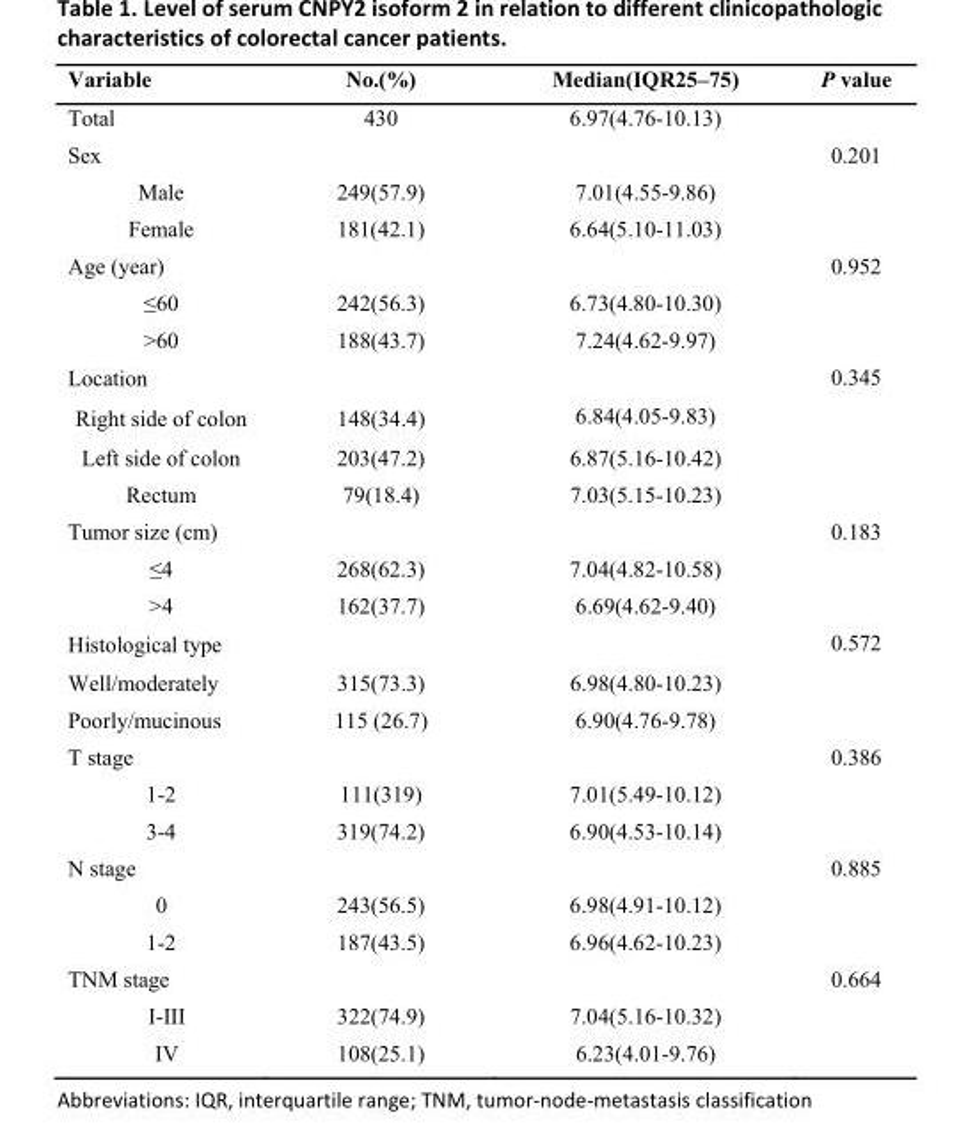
<table><tbody><tr><td>Variable</td><td>No.(%)</td><td>Median(IQR25–75)</td><td>P value</td></tr><tr><td>Total</td><td>430</td><td>6.97(4.76-10.13)</td><td></td></tr><tr><td>Sex</td><td></td><td></td><td>0.201</td></tr><tr><td>Male</td><td>249(57.9)</td><td>7.01(4.55-9.86)</td><td></td></tr><tr><td>Female</td><td>181(42.1)</td><td>6.64(5.10-11.03)</td><td></td></tr><tr><td>Age (year)</td><td></td><td></td><td>0.952</td></tr><tr><td>≤60</td><td>242(56.3)</td><td>6.73(4.80-10.30)</td><td></td></tr><tr><td>&gt;60</td><td>188(43.7)</td><td>7.24(4.62-9.97)</td><td></td></tr><tr><td>Location</td><td></td><td></td><td>0.345</td></tr><tr><td>Right side of colon</td><td>148(34.4)</td><td>6.84(4.05-9.83)</td><td></td></tr><tr><td>Left side of colon</td><td>203(47.2)</td><td>6.87(5.16-10.42)</td><td></td></tr><tr><td>Rectum</td><td>79(18.4)</td><td>7.03(5.15-10.23)</td><td></td></tr><tr><td>Tumor size (cm)</td><td></td><td></td><td>0.183</td></tr><tr><td>≤4</td><td>268(62.3)</td><td>7.04(4.82-10.58)</td><td></td></tr><tr><td>&gt;4</td><td>162(37.7)</td><td>6.69(4.62-9.40)</td><td></td></tr><tr><td>Histological type</td><td></td><td></td><td>0.572</td></tr><tr><td>Well/moderately</td><td>315(73.3)</td><td>6.98(4.80-10.23)</td><td></td></tr><tr><td>Poorly/mucinous</td><td>115 (26.7)</td><td>6.90(4.76-9.78)</td><td></td></tr><tr><td>T stage</td><td></td><td></td><td>0.386</td></tr><tr><td>1-2</td><td>111(319)</td><td>7.01(5.49-10.12)</td><td></td></tr><tr><td>3-4</td><td>319(74.2)</td><td>6.90(4.53-10.14)</td><td></td></tr><tr><td>N stage</td><td></td><td></td><td>0.885</td></tr><tr><td>0</td><td>243(56.5)</td><td>6.98(4.91-10.12)</td><td></td></tr><tr><td>1-2</td><td>187(43.5)</td><td>6.96(4.62-10.23)</td><td></td></tr><tr><td>TNM stage</td><td></td><td></td><td>0.664</td></tr><tr><td>I-III</td><td>322(74.9)</td><td>7.04(5.16-10.32)</td><td></td></tr><tr><td>IV</td><td>108(25.1)</td><td>6.23(4.01-9.76)</td><td></td></tr></tbody></table>